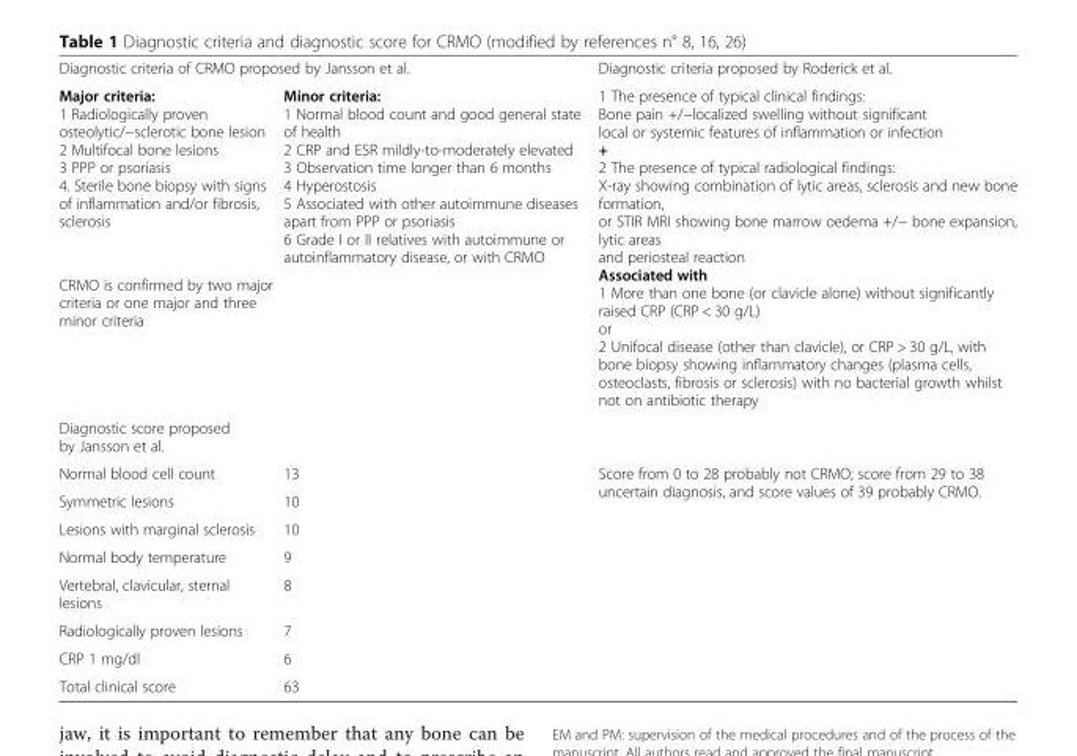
<table><tbody><tr><td colspan="2">Diagnostic criteria of CRMO proposed by Jansson et al.</td><td>Diagnostic criteria proposed by Roderick et al.</td></tr><tr><td>Major criteria: 1 Radiologically proven osteolytic/−sclerotic bone lesion 2 Multifocal bone lesions 3 PPP or psoriasis 4. Sterile bone biopsy with signs of inflammation and/or fibrosis, sclerosis</td><td>Minor criteria: 1 Normal blood count and good general state of health 2 CRP and ESR mildly-to-moderately elevated 3 Observation time longer than 6 months 4 Hyperostosis 5 Associated with other autoimmune diseases apart from PPP or psoriasis 6 Grade I or II relatives with autoimmune or autoinflammatory disease, or with CRMO</td><td rowspan="2">1 The presence of typical clinical findings: Bone pain +/−localized swelling without significant local or systemic features of inflammation or infection + 2 The presence of typical radiological findings: X-ray showing combination of lytic areas, sclerosis and new bone formation, or STIR MRI showing bone marrow oedema +/− bone expansion, lytic areas and periosteal reaction Associated with 1 More than one bone (or clavicle alone) without significantly raised CRP (CRP &lt; 30 g/L) or 2 Unifocal disease (other than clavicle), or CRP &gt; 30 g/L, with bone biopsy showing inflammatory changes (plasma cells, osteoclasts, fibrosis or sclerosis) with no bacterial growth whilst not on antibiotic therapy</td></tr><tr><td colspan="2">CRMO is confirmed by two major criteria or one major and three minor criteria</td></tr><tr><td colspan="3">Diagnostic score proposed by Jansson et al.</td></tr><tr><td>Normal blood cell count</td><td>13</td><td rowspan="8">Score from 0 to 28 probably not CRMO; score from 29 to 38 uncertain diagnosis, and score values of 39 probably CRMO.</td></tr><tr><td>Symmetric lesions</td><td>10</td></tr><tr><td>Lesions with marginal sclerosis</td><td>10</td></tr><tr><td>Normal body temperature</td><td>9</td></tr><tr><td>Vertebral, clavicular, sternal lesions</td><td>8</td></tr><tr><td>Radiologically proven lesions</td><td>7</td></tr><tr><td>CRP 1 mg/dl</td><td>6</td></tr><tr><td>Total clinical score</td><td>63</td></tr></tbody></table>